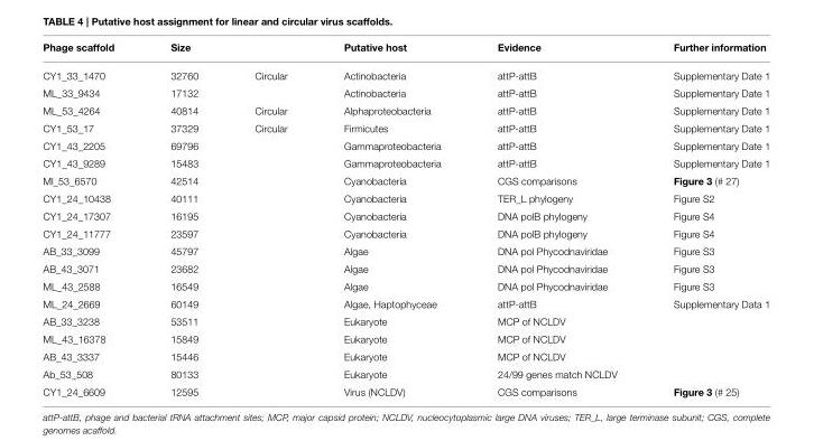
<table><thead><tr><td>Phage scaffold</td><td>Size</td><td></td><td>Putative host</td><td>Evidence</td><td>Further information</td></tr></thead><tbody><tr><td>CY1_33_1470</td><td>32760</td><td>Circular</td><td>Actinobacteria</td><td>attP-attB</td><td>Supplementary Date 1</td></tr><tr><td>ML_33_9434</td><td>17132</td><td></td><td>Actinobacteria</td><td>attP-attB</td><td>Supplementary Date 1</td></tr><tr><td>ML_53_4264</td><td>40814</td><td>Circular</td><td>Alphaproteobacteria</td><td>attP-attB</td><td>Supplementary Date 1</td></tr><tr><td>CY1_53_17</td><td>37329</td><td>Circular</td><td>Firmicutes</td><td>attP-attB</td><td>Supplementary Date 1</td></tr><tr><td>CY1_43_2205</td><td>69796</td><td></td><td>Gammaproteobacteria</td><td>attP-attB</td><td>Supplementary Date 1</td></tr><tr><td>CY1_43_9289</td><td>15483</td><td></td><td>Gammaproteobacteria</td><td>attP-attB</td><td>Supplementary Date 1</td></tr><tr><td>Ml_53_6570</td><td>42514</td><td></td><td>Cyanobacteria</td><td>CGS comparisons</td><td>Figure 3 (# 27)</td></tr><tr><td>CY1_24_10438</td><td>40111</td><td></td><td>Cyanobacteria</td><td>TER_L phylogeny</td><td>Figure S2</td></tr><tr><td>CY1_24_17307</td><td>16195</td><td></td><td>Cyanobacteria</td><td>DNA polB phylogeny</td><td>Figure S4</td></tr><tr><td>CY1_24_11777</td><td>23597</td><td></td><td>Cyanobacteria</td><td>DNA polB phylogeny</td><td>Figure S4</td></tr><tr><td>AB_33_3099</td><td>45797</td><td></td><td>Algae</td><td>DNA pol Phycodnaviridae</td><td>Figure S3</td></tr><tr><td>AB_43_3071</td><td>23682</td><td></td><td>Algae</td><td>DNA pol Phycodnaviridae</td><td>Figure S3</td></tr><tr><td>ML_43_2588</td><td>16549</td><td></td><td>Algae</td><td>DNA pol Phycodnaviridae</td><td>Figure S3</td></tr><tr><td>ML_24_2669</td><td>60149</td><td></td><td>Algae, Haptophyceae</td><td>attP-attB</td><td>Supplementary Data 1</td></tr><tr><td>AB_33_3238</td><td>53511</td><td></td><td>Eukaryote</td><td>MCP of NCLDV</td><td></td></tr><tr><td>ML_43_16378</td><td>15849</td><td></td><td>Eukaryote</td><td>MCP of NCLDV</td><td></td></tr><tr><td>AB_43_3337</td><td>15446</td><td></td><td>Eukaryote</td><td>MCP of NCLDV</td><td></td></tr><tr><td>Ab_53_508</td><td>80133</td><td></td><td>Eukaryote</td><td>24/99 genes match NCLDV</td><td></td></tr><tr><td>CY1_24_6609</td><td>12595</td><td></td><td>Virus (NCLDV)</td><td>CGS comparisons</td><td>Figure 3 (# 25)</td></tr></tbody></table>